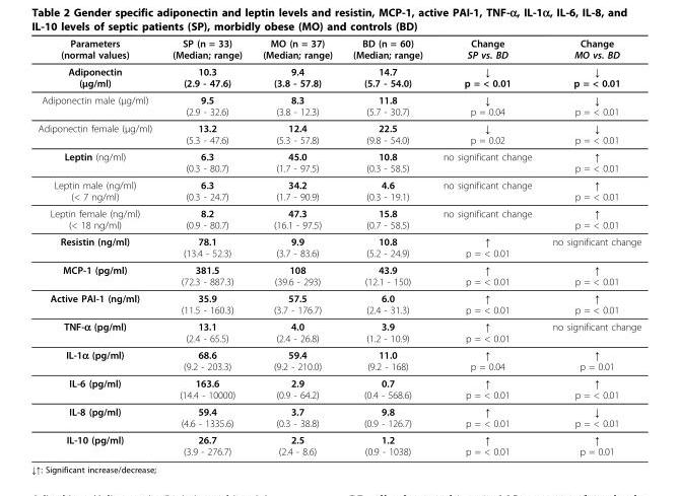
<table><thead><tr><td>Parameters (normal values)</td><td>SP (n = 33) (Median; range)</td><td>MO (n = 37) (Median; range)</td><td>BD (n = 60) (Median; range)</td><td>Change SP vs. BD</td><td>Change MO vs. BD</td></tr></thead><tbody><tr><td>Adiponectin (μg/ml)</td><td>10.3 (2.9 - 47.6)</td><td>9.4 (3.8 - 57.8)</td><td>14.7 (5.7 - 54.0)</td><td>↓ p = &lt; 0.01</td><td>↓ p = &lt; 0.01</td></tr><tr><td>Adiponectin male (μg/ml)</td><td>9.5 (2.9 - 32.6)</td><td>8.3 (3.8 - 12.3)</td><td>11.8 (5.7 - 30.7)</td><td>↓ p = 0.04</td><td>↓ p = &lt; 0.01</td></tr><tr><td>Adiponectin female (μg/ml)</td><td>13.2 (5.3 - 47.6)</td><td>12.4 (5.3 - 57.8)</td><td>22.5 (9.8 - 54.0)</td><td>↓ p = 0.02</td><td>↓ p = &lt; 0.01</td></tr><tr><td>Leptin (ng/ml)</td><td>6.3 (0.3 - 80.7)</td><td>45.0 (1.7 - 97.5)</td><td>10.8 (0.3 - 58.5)</td><td>no significant change</td><td>↑ p = &lt; 0.01</td></tr><tr><td>Leptin male (ng/ml) (&lt; 7 ng/ml)</td><td>6.3 (0.3 - 24.7)</td><td>34.2 (1.7 - 90.9)</td><td>4.6 (0.3 - 19.1)</td><td>no significant change</td><td>↑ p = &lt; 0.01</td></tr><tr><td>Leptin female (ng/ml) (&lt; 18 ng/ml)</td><td>8.2 (0.9 - 80.7)</td><td>47.3 (16.1 - 97.5)</td><td>15.8 (0.7 - 58.5)</td><td>no significant change</td><td>↑ p = &lt; 0.01</td></tr><tr><td>Resistin (ng/ml)</td><td>78.1 (13.4 - 52.3)</td><td>9.9 (3.7 - 83.6)</td><td>10.8 (5.2 - 24.9)</td><td>↑ p = &lt; 0.01</td><td>no significant change</td></tr><tr><td>MCP-1 (pg/ml)</td><td>381.5 (72.3 - 887.3)</td><td>108 (39.6 - 293)</td><td>43.9 (12.1 - 150)</td><td>↑ p = &lt; 0.01</td><td>↑ p = &lt; 0.01</td></tr><tr><td>Active PAI-1 (ng/ml)</td><td>35.9 (11.5 - 160.3)</td><td>57.5 (3.7 - 176.7)</td><td>6.0 (2.4 - 31.3)</td><td>↑ p = &lt; 0.01</td><td>↑ p = &lt; 0.01</td></tr><tr><td>TNF-α (pg/ml)</td><td>13.1 (2.4 - 65.5)</td><td>4.0 (2.4 - 26.8)</td><td>3.9 (1.2 - 10.9)</td><td>↑ p = &lt; 0.01</td><td>no significant change</td></tr><tr><td>IL-1α (pg/ml)</td><td>68.6 (9.2 - 203.3)</td><td>59.4 (9.2 - 210.0)</td><td>11.0 (9.2 - 168)</td><td>↑ p = 0.04</td><td>↑ p = 0.01</td></tr><tr><td>IL-6 (pg/ml)</td><td>163.6 (14.4 - 10000)</td><td>2.9 (0.9 - 64.2)</td><td>0.7 (0.4 - 568.6)</td><td>↑ p = &lt; 0.01</td><td>↑ p = &lt; 0.01</td></tr><tr><td>IL-8 (pg/ml)</td><td>59.4 (4.6 - 1335.6)</td><td>3.7 (0.3 - 38.8)</td><td>9.8 (0.9 - 126.7)</td><td>↑ p = &lt; 0.01</td><td>↓ p = &lt; 0.01</td></tr><tr><td>IL-10 (pg/ml)</td><td>26.7 (3.9 - 276.7)</td><td>2.5 (2.4 - 8.6)</td><td>1.2 (0.9 - 1038)</td><td>↑ p = &lt; 0.01</td><td>↑ p = 0.01</td></tr></tbody></table>